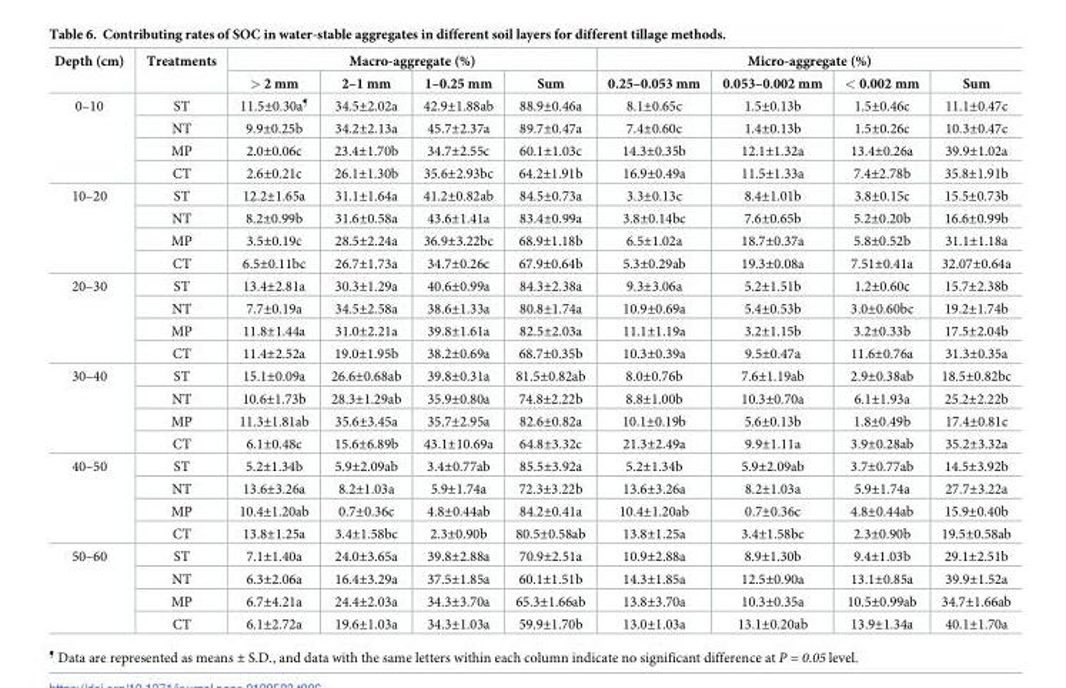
<table><thead><tr><td rowspan="2">Depth (cm)</td><td rowspan="2">Treatments</td><td colspan="4">Macro-aggregate (%)</td><td colspan="4">Micro-aggregate (%)</td></tr><tr><td>&gt; 2 mm</td><td>2–1 mm</td><td>1–0.25 mm</td><td>Sum</td><td>0.25–0.053 mm</td><td>0.053–0.002 mm</td><td>&lt; 0.002 mm</td><td>Sum</td></tr></thead><tbody><tr><td rowspan="4">0–10</td><td>ST</td><td>11.5±0.30a<sup>¶</sup></td><td>34.5±2.02a</td><td>42.9±1.88ab</td><td>88.9±0.46a</td><td>8.1±0.65c</td><td>1.5±0.13b</td><td>1.5±0.46c</td><td>11.1±0.47c</td></tr><tr><td>NT</td><td>9.9±0.25b</td><td>34.2±2.13a</td><td>45.7±2.37a</td><td>89.7±0.47a</td><td>7.4±0.60c</td><td>1.4±0.13b</td><td>1.5±0.26c</td><td>10.3±0.47c</td></tr><tr><td>MP</td><td>2.0±0.06c</td><td>23.4±1.70b</td><td>34.7±2.55c</td><td>60.1±1.03c</td><td>14.3±0.35b</td><td>12.1±1.32a</td><td>13.4±0.26a</td><td>39.9±1.02a</td></tr><tr><td>CT</td><td>2.6±0.21c</td><td>26.1±1.30b</td><td>35.6±2.93bc</td><td>64.2±1.91b</td><td>16.9±0.49a</td><td>11.5±1.33a</td><td>7.4±2.78b</td><td>35.8±1.91b</td></tr><tr><td rowspan="4">10–20</td><td>ST</td><td>12.2±1.65a</td><td>31.1±1.64a</td><td>41.2±0.82ab</td><td>84.5±0.73a</td><td>3.3±0.13c</td><td>8.4±1.01b</td><td>3.8±0.15c</td><td>15.5±0.73b</td></tr><tr><td>NT</td><td>8.2±0.99b</td><td>31.6±0.58a</td><td>43.6±1.41a</td><td>83.4±0.99a</td><td>3.8±0.14bc</td><td>7.6±0.65b</td><td>5.2±0.20b</td><td>16.6±0.99b</td></tr><tr><td>MP</td><td>3.5±0.19c</td><td>28.5±2.24a</td><td>36.9±3.22bc</td><td>68.9±1.18b</td><td>6.5±1.02a</td><td>18.7±0.37a</td><td>5.8±0.52b</td><td>31.1±1.18a</td></tr><tr><td>CT</td><td>6.5±0.11bc</td><td>26.7±1.73a</td><td>34.7±0.26c</td><td>67.9±0.64b</td><td>5.3±0.29ab</td><td>19.3±0.08a</td><td>7.51±0.41a</td><td>32.07±0.64a</td></tr><tr><td rowspan="4">20–30</td><td>ST</td><td>13.4±2.81a</td><td>30.3±1.29a</td><td>40.6±0.99a</td><td>84.3±2.38a</td><td>9.3±3.06a</td><td>5.2±1.51b</td><td>1.2±0.60c</td><td>15.7±2.38b</td></tr><tr><td>NT</td><td>7.7±0.19a</td><td>34.5±2.58a</td><td>38.6±1.33a</td><td>80.8±1.74a</td><td>10.9±0.69a</td><td>5.4±0.53b</td><td>3.0±0.60bc</td><td>19.2±1.74b</td></tr><tr><td>MP</td><td>11.8±1.44a</td><td>31.0±2.21a</td><td>39.8±1.61a</td><td>82.5±2.03a</td><td>11.1±1.19a</td><td>3.2±1.15b</td><td>3.2±0.33b</td><td>17.5±2.04b</td></tr><tr><td>CT</td><td>11.4±2.52a</td><td>19.0±1.95b</td><td>38.2±0.69a</td><td>68.7±0.35b</td><td>10.3±0.39a</td><td>9.5±0.47a</td><td>11.6±0.76a</td><td>31.3±0.35a</td></tr><tr><td rowspan="4">30–40</td><td>ST</td><td>15.1±0.09a</td><td>26.6±0.68ab</td><td>39.8±0.31a</td><td>81.5±0.82ab</td><td>8.0±0.76b</td><td>7.6±1.19ab</td><td>2.9±0.38ab</td><td>18.5±0.82bc</td></tr><tr><td>NT</td><td>10.6±1.73b</td><td>28.3±1.29ab</td><td>35.9±0.80a</td><td>74.8±2.22b</td><td>8.8±1.00b</td><td>10.3±0.70a</td><td>6.1±1.93a</td><td>25.2±2.22b</td></tr><tr><td>MP</td><td>11.3±1.81ab</td><td>35.6±3.45a</td><td>35.7±2.95a</td><td>82.6±0.82a</td><td>10.1±0.19b</td><td>5.6±0.13b</td><td>1.8±0.49b</td><td>17.4±0.81c</td></tr><tr><td>CT</td><td>6.1±0.48c</td><td>15.6±6.89b</td><td>43.1±10.69a</td><td>64.8±3.32c</td><td>21.3±2.49a</td><td>9.9±1.11a</td><td>3.9±0.28ab</td><td>35.2±3.32a</td></tr><tr><td rowspan="4">40–50</td><td>ST</td><td>5.2±1.34b</td><td>5.9±2.09ab</td><td>3.4±0.77ab</td><td>85.5±3.92a</td><td>5.2±1.34b</td><td>5.9±2.09ab</td><td>3.7±0.77ab</td><td>14.5±3.92b</td></tr><tr><td>NT</td><td>13.6±3.26a</td><td>8.2±1.03a</td><td>5.9±1.74a</td><td>72.3±3.22b</td><td>13.6±3.26a</td><td>8.2±1.03a</td><td>5.9±1.74a</td><td>27.7±3.22a</td></tr><tr><td>MP</td><td>10.4±1.20ab</td><td>0.7±0.36c</td><td>4.8±0.44ab</td><td>84.2±0.41a</td><td>10.4±1.20ab</td><td>0.7±0.36c</td><td>4.8±0.44ab</td><td>15.9±0.40b</td></tr><tr><td>CT</td><td>13.8±1.25a</td><td>3.4±1.58bc</td><td>2.3±0.90b</td><td>80.5±0.58ab</td><td>13.8±1.25a</td><td>3.4±1.58bc</td><td>2.3±0.90b</td><td>19.5±0.58ab</td></tr><tr><td rowspan="4">50–60</td><td>ST</td><td>7.1±1.40a</td><td>24.0±3.65a</td><td>39.8±2.88a</td><td>70.9±2.51a</td><td>10.9±2.88a</td><td>8.9±1.30b</td><td>9.4±1.03b</td><td>29.1±2.51b</td></tr><tr><td>NT</td><td>6.3±2.06a</td><td>16.4±3.29a</td><td>37.5±1.85a</td><td>60.1±1.51b</td><td>14.3±1.85a</td><td>12.5±0.90a</td><td>13.1±0.85a</td><td>39.9±1.52a</td></tr><tr><td>MP</td><td>6.7±4.21a</td><td>24.4±2.03a</td><td>34.3±3.70a</td><td>65.3±1.66ab</td><td>13.8±3.70a</td><td>10.3±0.35a</td><td>10.5±0.99ab</td><td>34.7±1.66ab</td></tr><tr><td>CT</td><td>6.1±2.72a</td><td>19.6±1.03a</td><td>34.3±1.03a</td><td>59.9±1.70b</td><td>13.0±1.03a</td><td>13.1±0.20ab</td><td>13.9±1.34a</td><td>40.1±1.70a</td></tr></tbody></table>